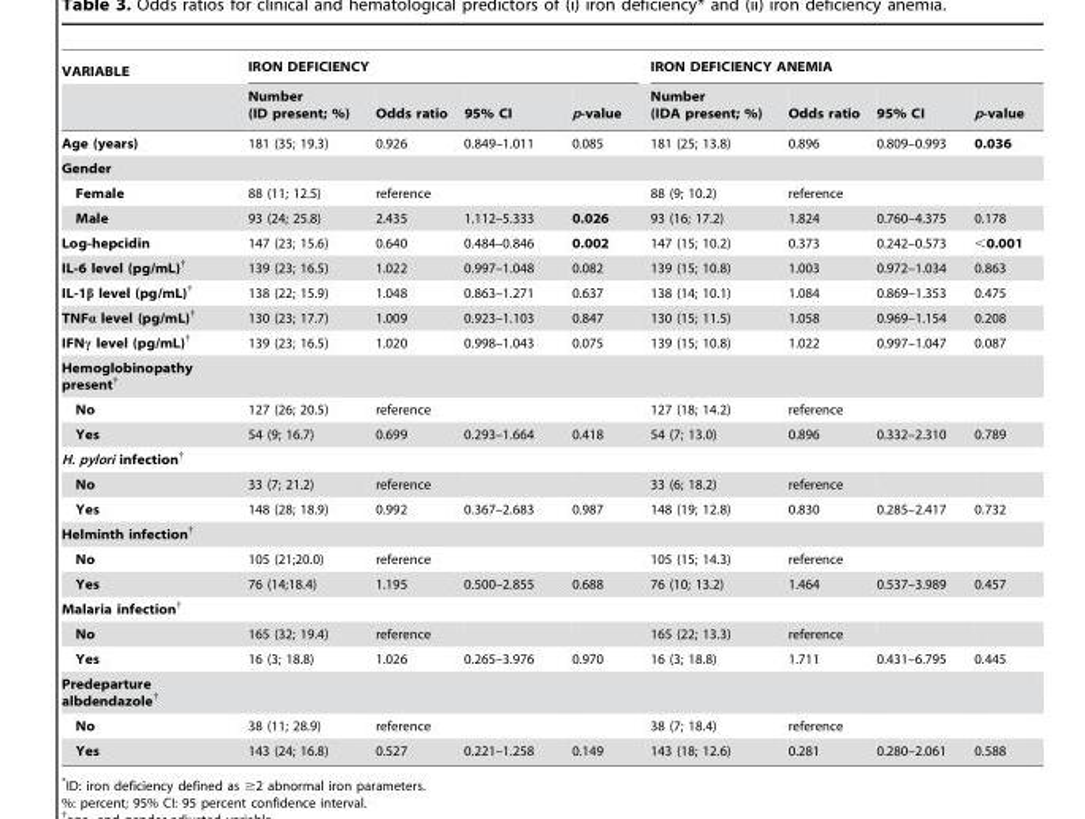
<table><thead><tr><td rowspan="2">VARIABLE</td><td colspan="4">IRON DEFICIENCY</td><td colspan="4">IRON DEFICIENCY ANEMIA</td></tr><tr><td>Number (ID present; %)</td><td>Odds ratio</td><td>95% CI</td><td>p-value</td><td>Number (IDA present; %)</td><td>Odds ratio</td><td>95% CI</td><td>p-value</td></tr></thead><tbody><tr><td>Age (years)</td><td>181 (35; 19.3)</td><td>0.926</td><td>0.849–1.011</td><td>0.085</td><td>181 (25; 13.8)</td><td>0.896</td><td>0.809–0.993</td><td>0.036</td></tr><tr><td colspan="9">Gender</td></tr><tr><td>Female</td><td>88 (11; 12.5)</td><td>reference</td><td></td><td></td><td>88 (9; 10.2)</td><td>reference</td><td></td><td></td></tr><tr><td>Male</td><td>93 (24; 25.8)</td><td>2.435</td><td>1.112–5.333</td><td>0.026</td><td>93 (16; 17.2)</td><td>1.824</td><td>0.760–4.375</td><td>0.178</td></tr><tr><td>Log-hepcidin</td><td>147 (23; 15.6)</td><td>0.640</td><td>0.484–0.846</td><td>0.002</td><td>147 (15; 10.2)</td><td>0.373</td><td>0.242–0.573</td><td>&lt;0.001</td></tr><tr><td>IL-6 level (pg/mL)†</td><td>139 (23; 16.5)</td><td>1.022</td><td>0.997–1.048</td><td>0.082</td><td>139 (15; 10.8)</td><td>1.003</td><td>0.972–1.034</td><td>0.863</td></tr><tr><td>IL-1β level (pg/mL)†</td><td>138 (22; 15.9)</td><td>1.048</td><td>0.863–1.271</td><td>0.637</td><td>138 (14; 10.1)</td><td>1.084</td><td>0.869–1.353</td><td>0.475</td></tr><tr><td>TNFα level (pg/mL)†</td><td>130 (23; 17.7)</td><td>1.009</td><td>0.923–1.103</td><td>0.847</td><td>130 (15; 11.5)</td><td>1.058</td><td>0.969–1.154</td><td>0.208</td></tr><tr><td>IFNγ level (pg/mL)†</td><td>139 (23; 16.5)</td><td>1.020</td><td>0.998–1.043</td><td>0.075</td><td>139 (15; 10.8)</td><td>1.022</td><td>0.997–1.047</td><td>0.087</td></tr><tr><td colspan="9">Hemoglobinopathy present†</td></tr><tr><td>No</td><td>127 (26; 20.5)</td><td>reference</td><td></td><td></td><td>127 (18; 14.2)</td><td>reference</td><td></td><td></td></tr><tr><td>Yes</td><td>54 (9; 16.7)</td><td>0.699</td><td>0.293–1.664</td><td>0.418</td><td>54 (7; 13.0)</td><td>0.896</td><td>0.332–2.310</td><td>0.789</td></tr><tr><td colspan="9">H. pylori infection†</td></tr><tr><td>No</td><td>33 (7; 21.2)</td><td>reference</td><td></td><td></td><td>33 (6; 18.2)</td><td>reference</td><td></td><td></td></tr><tr><td>Yes</td><td>148 (28; 18.9)</td><td>0.992</td><td>0.367–2.683</td><td>0.987</td><td>148 (19; 12.8)</td><td>0.830</td><td>0.285–2.417</td><td>0.732</td></tr><tr><td colspan="9">Helminth infection†</td></tr><tr><td>No</td><td>105 (21;20.0)</td><td>reference</td><td></td><td></td><td>105 (15; 14.3)</td><td>reference</td><td></td><td></td></tr><tr><td>Yes</td><td>76 (14;18.4)</td><td>1.195</td><td>0.500–2.855</td><td>0.688</td><td>76 (10; 13.2)</td><td>1.464</td><td>0.537–3.989</td><td>0.457</td></tr><tr><td colspan="9">Malaria infection†</td></tr><tr><td>No</td><td>165 (32; 19.4)</td><td>reference</td><td></td><td></td><td>165 (22; 13.3)</td><td>reference</td><td></td><td></td></tr><tr><td>Yes</td><td>16 (3; 18.8)</td><td>1.026</td><td>0.265–3.976</td><td>0.970</td><td>16 (3; 18.8)</td><td>1.711</td><td>0.431–6.795</td><td>0.445</td></tr><tr><td colspan="9">Predeparture albdendazole†</td></tr><tr><td>No</td><td>38 (11; 28.9)</td><td>reference</td><td></td><td></td><td>38 (7; 18.4)</td><td>reference</td><td></td><td></td></tr><tr><td>Yes</td><td>143 (24; 16.8)</td><td>0.527</td><td>0.221–1.258</td><td>0.149</td><td>143 (18; 12.6)</td><td>0.281</td><td>0.280–2.061</td><td>0.588</td></tr></tbody></table>